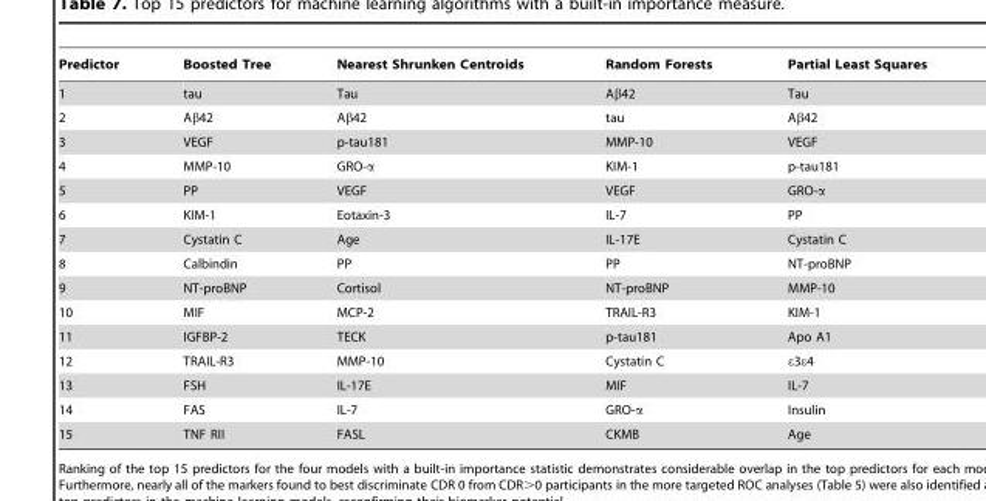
<table><thead><tr><td>Predictor</td><td>Boosted Tree</td><td>Nearest Shrunken Centroids</td><td>Random Forests</td><td>Partial Least Squares</td></tr></thead><tbody><tr><td>1</td><td>tau</td><td>Tau</td><td>Aβ42</td><td>Tau</td></tr><tr><td>2</td><td>Aβ42</td><td>Aβ42</td><td>tau</td><td>Aβ42</td></tr><tr><td>3</td><td>VEGF</td><td>p-tau181</td><td>MMP-10</td><td>VEGF</td></tr><tr><td>4</td><td>MMP-10</td><td>GRO-α</td><td>KIM-1</td><td>p-tau181</td></tr><tr><td>5</td><td>PP</td><td>VEGF</td><td>VEGF</td><td>GRO-α</td></tr><tr><td>6</td><td>KIM-1</td><td>Eotaxin-3</td><td>IL-7</td><td>PP</td></tr><tr><td>7</td><td>Cystatin C</td><td>Age</td><td>IL-17E</td><td>Cystatin C</td></tr><tr><td>8</td><td>Calbindin</td><td>PP</td><td>PP</td><td>NT-proBNP</td></tr><tr><td>9</td><td>NT-proBNP</td><td>Cortisol</td><td>NT-proBNP</td><td>MMP-10</td></tr><tr><td>10</td><td>MIF</td><td>MCP-2</td><td>TRAIL-R3</td><td>KIM-1</td></tr><tr><td>11</td><td>IGFBP-2</td><td>TECK</td><td>p-tau181</td><td>Apo A1</td></tr><tr><td>12</td><td>TRAIL-R3</td><td>MMP-10</td><td>Cystatin C</td><td>ε3ε4</td></tr><tr><td>13</td><td>FSH</td><td>IL-17E</td><td>MIF</td><td>IL-7</td></tr><tr><td>14</td><td>FAS</td><td>IL-7</td><td>GRO-α</td><td>Insulin</td></tr><tr><td>15</td><td>TNF RII</td><td>FASL</td><td>CKMB</td><td>Age</td></tr></tbody></table>